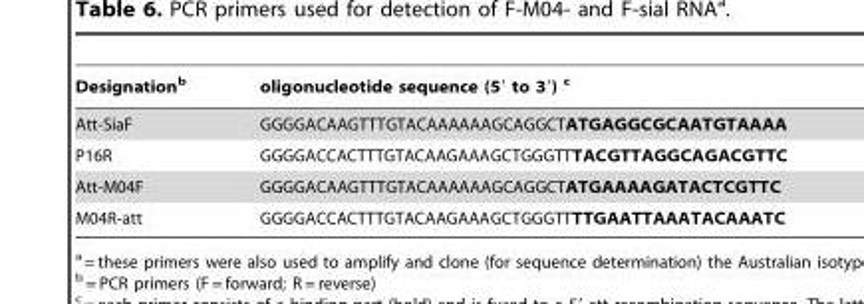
<table><thead><tr><td>Designation<sup>b</sup></td><td>oligonucleotide sequence (5′ to 3′) c</td></tr></thead><tbody><tr><td>Att-SiaF</td><td>GGGGACAAGTTTGTACAAAAAAGCAGGCTATGAGGCGCAATGTAAAA</td></tr><tr><td>P16R</td><td>GGGGACCACTTTGTACAAGAAAGCTGGGTTTACGTTAGGCAGACGTTC</td></tr><tr><td>Att-M04F</td><td>GGGGACAAGTTTGTACAAAAAAGCAGGCTATGAAAAGATACTCGTTC</td></tr><tr><td>M04R-att</td><td>GGGGACCACTTTGTACAAGAAAGCTGGGTTTTGAATTAAATACAAATC</td></tr></tbody></table>